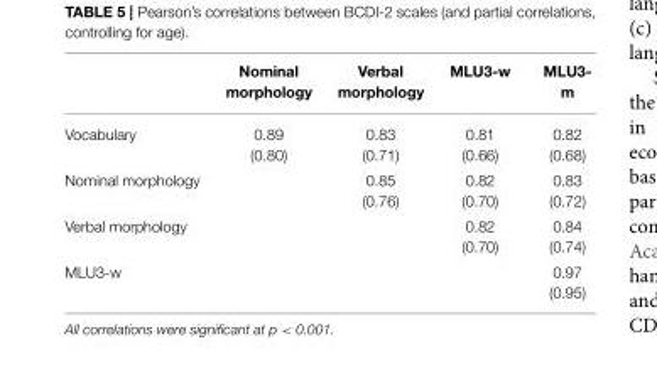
<table><thead><tr><td></td><td>Nominal morphology</td><td>Verbal morphology</td><td>MLU3-w</td><td>MLU3- m</td></tr></thead><tbody><tr><td>Vocabulary</td><td>0.89 (0.80)</td><td>0.83 (0.71)</td><td>0.81 (0.66)</td><td>0.82 (0.68)</td></tr><tr><td>Nominal morphology</td><td></td><td>0.85 (0.76)</td><td>0.82 (0.70)</td><td>0.83 (0.72)</td></tr><tr><td>Verbal morphology</td><td></td><td></td><td>0.82 (0.70)</td><td>0.84 (0.74)</td></tr><tr><td>MLU3-w</td><td></td><td></td><td></td><td>0.97 (0.95)</td></tr></tbody></table>